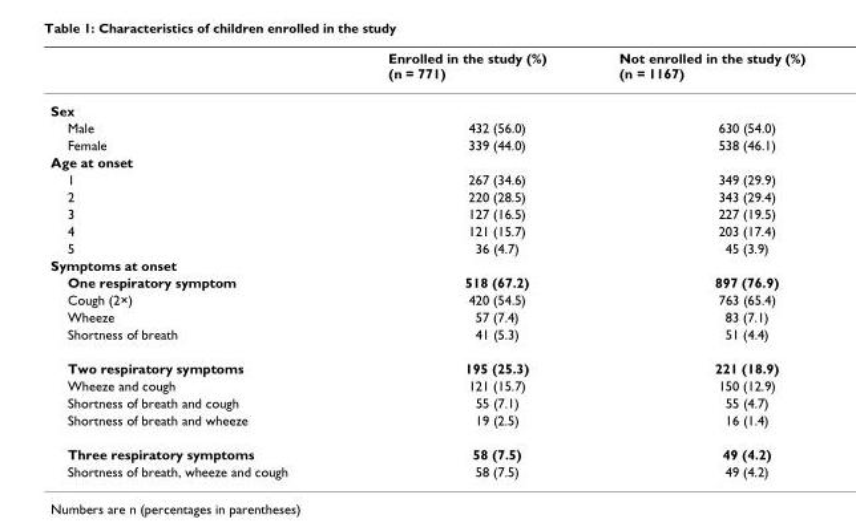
<table><thead><tr><td></td><td>Enrolled in the study (%) (n = 771)</td><td>Not enrolled in the study (%) (n = 1167)</td></tr></thead><tbody><tr><td colspan="3">Sex</td></tr><tr><td>Male</td><td>432 (56.0)</td><td>630 (54.0)</td></tr><tr><td>Female</td><td>339 (44.0)</td><td>538 (46.1)</td></tr><tr><td colspan="3">Age at onset</td></tr><tr><td>1</td><td>267 (34.6)</td><td>349 (29.9)</td></tr><tr><td>2</td><td>220 (28.5)</td><td>343 (29.4)</td></tr><tr><td>3</td><td>127 (16.5)</td><td>227 (19.5)</td></tr><tr><td>4</td><td>121 (15.7)</td><td>203 (17.4)</td></tr><tr><td>5</td><td>36 (4.7)</td><td>45 (3.9)</td></tr><tr><td colspan="3">Symptoms at onset</td></tr><tr><td>One respiratory symptom</td><td>518 (67.2)</td><td>897 (76.9)</td></tr><tr><td>Cough (2×)</td><td>420 (54.5)</td><td>763 (65.4)</td></tr><tr><td>Wheeze</td><td>57 (7.4)</td><td>83 (7.1)</td></tr><tr><td>Shortness of breath</td><td>41 (5.3)</td><td>51 (4.4)</td></tr><tr><td>Two respiratory symptoms</td><td>195 (25.3)</td><td>221 (18.9)</td></tr><tr><td>Wheeze and cough</td><td>121 (15.7)</td><td>150 (12.9)</td></tr><tr><td>Shortness of breath and cough</td><td>55 (7.1)</td><td>55 (4.7)</td></tr><tr><td>Shortness of breath and wheeze</td><td>19 (2.5)</td><td>16 (1.4)</td></tr><tr><td>Three respiratory symptoms</td><td>58 (7.5)</td><td>49 (4.2)</td></tr><tr><td>Shortness of breath, wheeze and cough</td><td>58 (7.5)</td><td>49 (4.2)</td></tr></tbody></table>